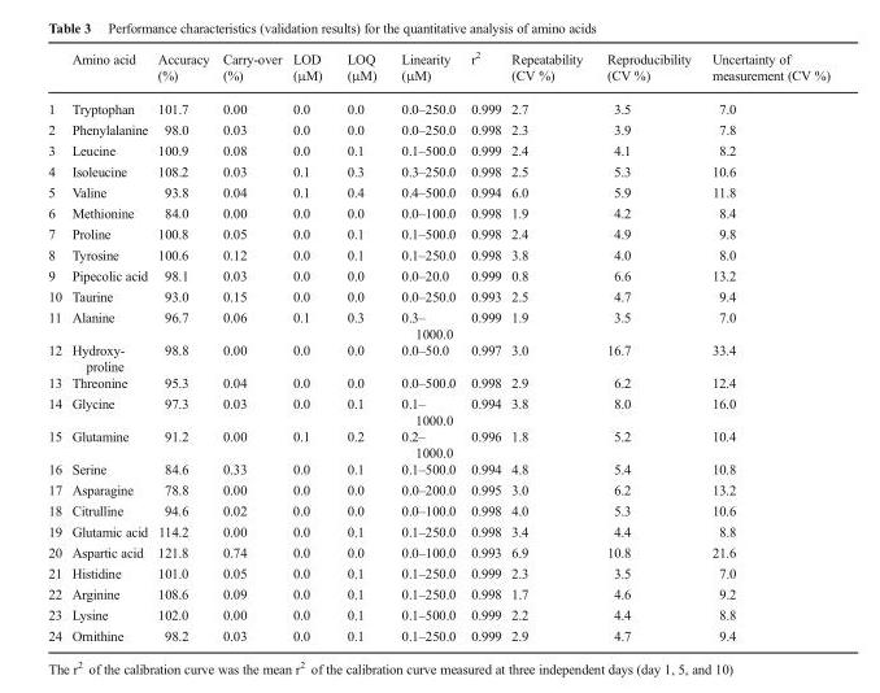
<table><thead><tr><td></td><td>Amino acid</td><td>Accuracy (%)</td><td>Carry-over (%)</td><td>LOD (μM)</td><td>LOQ (μM)</td><td>Linearity (μM)</td><td>r<sup>2</sup></td><td>Repeatability (CV %)</td><td>Reproducibility (CV %)</td><td>Uncertainty of measurement (CV %)</td></tr></thead><tbody><tr><td>1</td><td>Tryptophan</td><td>101.7</td><td>0.00</td><td>0.0</td><td>0.0</td><td>0.0–250.0</td><td>0.999</td><td>2.7</td><td>3.5</td><td>7.0</td></tr><tr><td>2</td><td>Phenylalanine</td><td>98.0</td><td>0.03</td><td>0.0</td><td>0.0</td><td>0.0–250.0</td><td>0.998</td><td>2.3</td><td>3.9</td><td>7.8</td></tr><tr><td>3</td><td>Leucine</td><td>100.9</td><td>0.08</td><td>0.0</td><td>0.1</td><td>0.1–500.0</td><td>0.999</td><td>2.4</td><td>4.1</td><td>8.2</td></tr><tr><td>4</td><td>Isoleucine</td><td>108.2</td><td>0.03</td><td>0.1</td><td>0.3</td><td>0.3–250.0</td><td>0.998</td><td>2.5</td><td>5.3</td><td>10.6</td></tr><tr><td>5</td><td>Valine</td><td>93.8</td><td>0.04</td><td>0.1</td><td>0.4</td><td>0.4–500.0</td><td>0.994</td><td>6.0</td><td>5.9</td><td>11.8</td></tr><tr><td>6</td><td>Methionine</td><td>84.0</td><td>0.00</td><td>0.0</td><td>0.0</td><td>0.0–100.0</td><td>0.998</td><td>1.9</td><td>4.2</td><td>8.4</td></tr><tr><td>7</td><td>Proline</td><td>100.8</td><td>0.05</td><td>0.0</td><td>0.1</td><td>0.1–500.0</td><td>0.998</td><td>2.4</td><td>4.9</td><td>9.8</td></tr><tr><td>8</td><td>Tyrosine</td><td>100.6</td><td>0.12</td><td>0.0</td><td>0.1</td><td>0.1–250.0</td><td>0.998</td><td>3.8</td><td>4.0</td><td>8.0</td></tr><tr><td>9</td><td>Pipecolic acid</td><td>98.1</td><td>0.03</td><td>0.0</td><td>0.0</td><td>0.0–20.0</td><td>0.999</td><td>0.8</td><td>6.6</td><td>13.2</td></tr><tr><td>10</td><td>Taurine</td><td>93.0</td><td>0.15</td><td>0.0</td><td>0.0</td><td>0.0–250.0</td><td>0.993</td><td>2.5</td><td>4.7</td><td>9.4</td></tr><tr><td>11</td><td>Alanine</td><td>96.7</td><td>0.06</td><td>0.1</td><td>0.3</td><td>0.3– 1000.0</td><td>0.999</td><td>1.9</td><td>3.5</td><td>7.0</td></tr><tr><td>12</td><td>Hydroxy- proline</td><td>98.8</td><td>0.00</td><td>0.0</td><td>0.0</td><td>0.0–50.0</td><td>0.997</td><td>3.0</td><td>16.7</td><td>33.4</td></tr><tr><td>13</td><td>Threonine</td><td>95.3</td><td>0.04</td><td>0.0</td><td>0.0</td><td>0.0–500.0</td><td>0.998</td><td>2.9</td><td>6.2</td><td>12.4</td></tr><tr><td>14</td><td>Glycine</td><td>97.3</td><td>0.03</td><td>0.0</td><td>0.1</td><td>0.1– 1000.0</td><td>0.994</td><td>3.8</td><td>8.0</td><td>16.0</td></tr><tr><td>15</td><td>Glutamine</td><td>91.2</td><td>0.00</td><td>0.1</td><td>0.2</td><td>0.2– 1000.0</td><td>0.996</td><td>1.8</td><td>5.2</td><td>10.4</td></tr><tr><td>16</td><td>Serine</td><td>84.6</td><td>0.33</td><td>0.0</td><td>0.1</td><td>0.1–500.0</td><td>0.994</td><td>4.8</td><td>5.4</td><td>10.8</td></tr><tr><td>17</td><td>Asparagine</td><td>78.8</td><td>0.00</td><td>0.0</td><td>0.0</td><td>0.0–200.0</td><td>0.995</td><td>3.0</td><td>6.2</td><td>13.2</td></tr><tr><td>18</td><td>Citrulline</td><td>94.6</td><td>0.02</td><td>0.0</td><td>0.0</td><td>0.0–100.0</td><td>0.998</td><td>4.0</td><td>5.3</td><td>10.6</td></tr><tr><td>19</td><td>Glutamic acid</td><td>114.2</td><td>0.00</td><td>0.0</td><td>0.1</td><td>0.1–250.0</td><td>0.998</td><td>3.4</td><td>4.4</td><td>8.8</td></tr><tr><td>20</td><td>Aspartic acid</td><td>121.8</td><td>0.74</td><td>0.0</td><td>0.0</td><td>0.0–100.0</td><td>0.993</td><td>6.9</td><td>10.8</td><td>21.6</td></tr><tr><td>21</td><td>Histidine</td><td>101.0</td><td>0.05</td><td>0.0</td><td>0.1</td><td>0.1–250.0</td><td>0.999</td><td>2.3</td><td>3.5</td><td>7.0</td></tr><tr><td>22</td><td>Arginine</td><td>108.6</td><td>0.09</td><td>0.0</td><td>0.1</td><td>0.1–250.0</td><td>0.998</td><td>1.7</td><td>4.6</td><td>9.2</td></tr><tr><td>23</td><td>Lysine</td><td>102.0</td><td>0.00</td><td>0.0</td><td>0.1</td><td>0.1–500.0</td><td>0.999</td><td>2.2</td><td>4.4</td><td>8.8</td></tr><tr><td>24</td><td>Ornithine</td><td>98.2</td><td>0.03</td><td>0.0</td><td>0.1</td><td>0.1–250.0</td><td>0.999</td><td>2.9</td><td>4.7</td><td>9.4</td></tr></tbody></table>